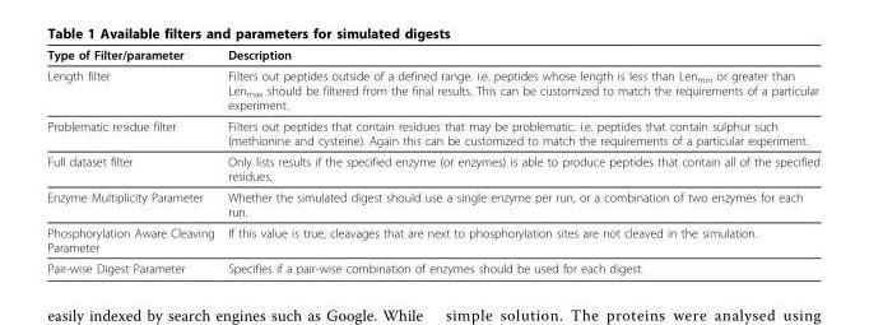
<table><thead><tr><td>Type of Filter/parameter</td><td>Description</td></tr></thead><tbody><tr><td>Length filter</td><td>Filters out peptides outside of a defined range. i.e. peptides whose length is less than Len<sub>min</sub> or greater than Len<sub>max</sub> should be filtered from the final results. This can be customized to match the requirements of a particular experiment.</td></tr><tr><td>Problematic residue filter</td><td>Filters out peptides that contain residues that may be problematic. i.e. peptides that contain sulphur such (methionine and cysteine). Again this can be customized to match the requirements of a particular experiment.</td></tr><tr><td>Full dataset filter</td><td>Only lists results if the specified enzyme (or enzymes) is able to produce peptides that contain all of the specified residues.</td></tr><tr><td>Enzyme Multiplicity Parameter</td><td>Whether the simulated digest should use a single enzyme per run, or a combination of two enzymes for each run.</td></tr><tr><td>Phosphorylation Aware Cleaving Parameter</td><td>If this value is true, cleavages that are next to phosphorylation sites are not cleaved in the simulation.</td></tr><tr><td>Pair-wise Digest Parameter</td><td>Specifies if a pair-wise combination of enzymes should be used for each digest.</td></tr></tbody></table>